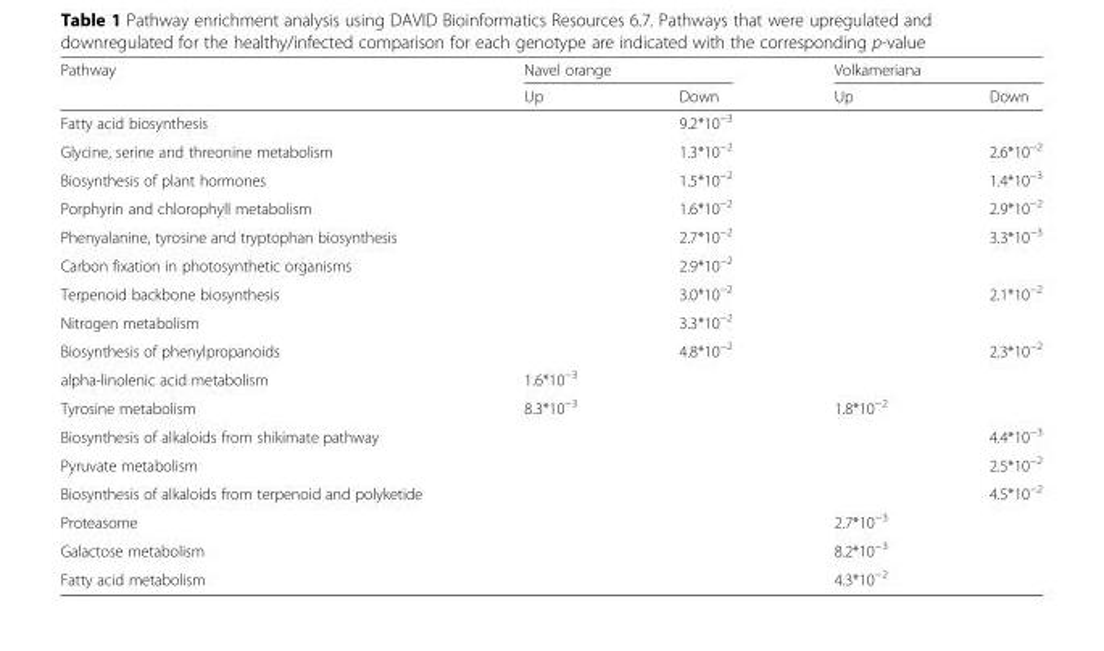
<table><thead><tr><td rowspan="2">Pathway</td><td colspan="2">Navel orange</td><td colspan="2">Volkameriana</td></tr><tr><td>Up</td><td>Down</td><td>Up</td><td>Down</td></tr></thead><tbody><tr><td>Fatty acid biosynthesis</td><td></td><td>9.2*10<sup>−3</sup></td><td></td><td></td></tr><tr><td>Glycine, serine and threonine metabolism</td><td></td><td>1.3*10<sup>−2</sup></td><td></td><td>2.6*10<sup>−2</sup></td></tr><tr><td>Biosynthesis of plant hormones</td><td></td><td>1.5*10<sup>−2</sup></td><td></td><td>1.4*10<sup>−3</sup></td></tr><tr><td>Porphyrin and chlorophyll metabolism</td><td></td><td>1.6*10<sup>−2</sup></td><td></td><td>2.9*10<sup>−2</sup></td></tr><tr><td>Phenyalanine, tyrosine and tryptophan biosynthesis</td><td></td><td>2.7*10<sup>−2</sup></td><td></td><td>3.3*10<sup>−3</sup></td></tr><tr><td>Carbon fixation in photosynthetic organisms</td><td></td><td>2.9*10<sup>−2</sup></td><td></td><td></td></tr><tr><td>Terpenoid backbone biosynthesis</td><td></td><td>3.0*10<sup>−2</sup></td><td></td><td>2.1*10<sup>−2</sup></td></tr><tr><td>Nitrogen metabolism</td><td></td><td>3.3*10<sup>−2</sup></td><td></td><td></td></tr><tr><td>Biosynthesis of phenylpropanoids</td><td></td><td>4.8*10<sup>−2</sup></td><td></td><td>2.3*10<sup>−2</sup></td></tr><tr><td>alpha-linolenic acid metabolism</td><td>1.6*10<sup>−3</sup></td><td></td><td></td><td></td></tr><tr><td>Tyrosine metabolism</td><td>8.3*10<sup>−3</sup></td><td></td><td>1.8*10<sup>−2</sup></td><td></td></tr><tr><td>Biosynthesis of alkaloids from shikimate pathway</td><td></td><td></td><td></td><td>4.4*10<sup>−3</sup></td></tr><tr><td>Pyruvate metabolism</td><td></td><td></td><td></td><td>2.5*10<sup>−2</sup></td></tr><tr><td>Biosynthesis of alkaloids from terpenoid and polyketide</td><td></td><td></td><td></td><td>4.5*10<sup>−2</sup></td></tr><tr><td>Proteasome</td><td></td><td></td><td>2.7*10<sup>−3</sup></td><td></td></tr><tr><td>Galactose metabolism</td><td></td><td></td><td>8.2*10<sup>−3</sup></td><td></td></tr><tr><td>Fatty acid metabolism</td><td></td><td></td><td>4.3*10<sup>−2</sup></td><td></td></tr></tbody></table>